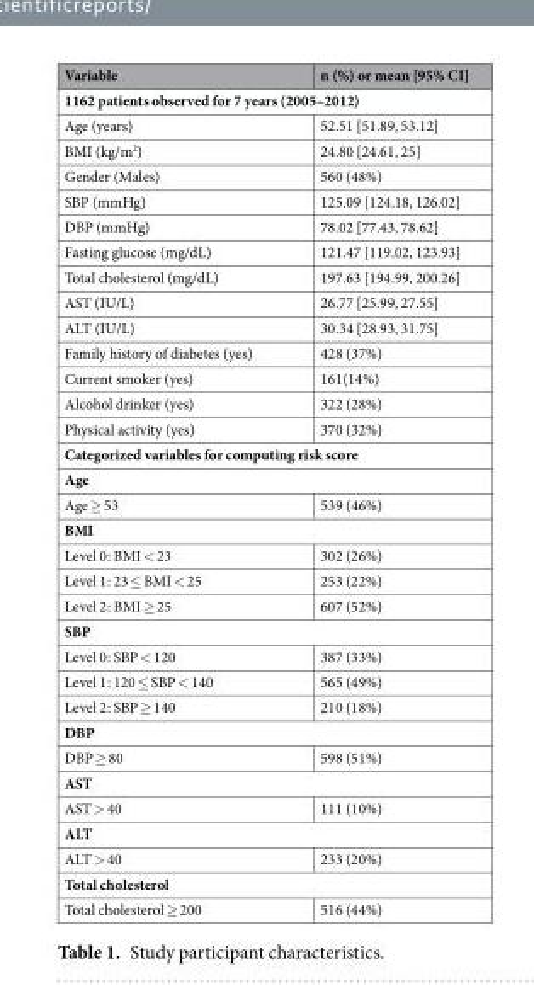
<table><thead><tr><td>Variable</td><td>n (%) or mean [95% CI]</td></tr></thead><tbody><tr><td colspan="2">1162 patients observed for 7 years (2005–2012)</td></tr><tr><td>Age (years)</td><td>52.51 [51.89, 53.12]</td></tr><tr><td>BMI (kg/m<sup>2</sup>)</td><td>24.80 [24.61, 25]</td></tr><tr><td>Gender (Males)</td><td>560 (48%)</td></tr><tr><td>SBP (mmHg)</td><td>125.09 [124.18, 126.02]</td></tr><tr><td>DBP (mmHg)</td><td>78.02 [77.43, 78.62]</td></tr><tr><td>Fasting glucose (mg/dL)</td><td>121.47 [119.02, 123.93]</td></tr><tr><td>Total cholesterol (mg/dL)</td><td>197.63 [194.99, 200.26]</td></tr><tr><td>AST (IU/L)</td><td>26.77 [25.99, 27.55]</td></tr><tr><td>ALT (IU/L)</td><td>30.34 [28.93, 31.75]</td></tr><tr><td>Family history of diabetes (yes)</td><td>428 (37%)</td></tr><tr><td>Current smoker (yes)</td><td>161(14%)</td></tr><tr><td>Alcohol drinker (yes)</td><td>322 (28%)</td></tr><tr><td>Physical activity (yes)</td><td>370 (32%)</td></tr><tr><td colspan="2">Categorized variables for computing risk score</td></tr><tr><td colspan="2">Age</td></tr><tr><td>Age ≥ 53</td><td>539 (46%)</td></tr><tr><td colspan="2">BMI</td></tr><tr><td>Level 0: BMI &lt; 23</td><td>302 (26%)</td></tr><tr><td>Level 1: 23 ≤ BMI &lt; 25</td><td>253 (22%)</td></tr><tr><td>Level 2: BMI ≥ 25</td><td>607 (52%)</td></tr><tr><td colspan="2">SBP</td></tr><tr><td>Level 0: SBP &lt; 120</td><td>387 (33%)</td></tr><tr><td>Level 1: 120 ≤ SBP &lt; 140</td><td>565 (49%)</td></tr><tr><td>Level 2: SBP ≥ 140</td><td>210 (18%)</td></tr><tr><td colspan="2">DBP</td></tr><tr><td>DBP ≥ 80</td><td>598 (51%)</td></tr><tr><td colspan="2">AST</td></tr><tr><td>AST &gt; 40</td><td>111 (10%)</td></tr><tr><td colspan="2">ALT</td></tr><tr><td>ALT &gt; 40</td><td>233 (20%)</td></tr><tr><td colspan="2">Total cholesterol</td></tr><tr><td>Total cholesterol ≥ 200</td><td>516 (44%)</td></tr></tbody></table>